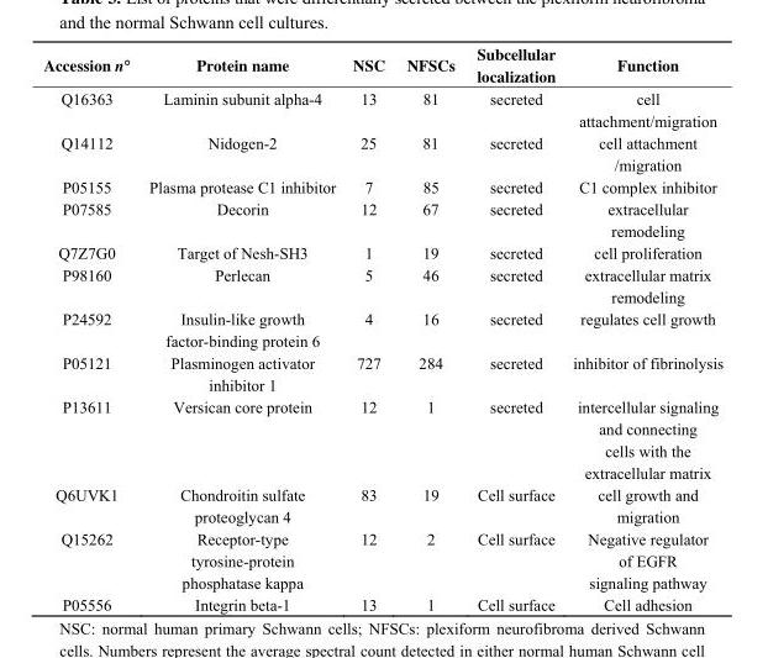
<table><thead><tr><td>Accession n°</td><td>Protein name</td><td>NSC</td><td>NFSCs</td><td>Subcellular localization</td><td>Function</td></tr></thead><tbody><tr><td>Q16363</td><td>Laminin subunit alpha-4</td><td>13</td><td>81</td><td>secreted</td><td>cell attachment/migration</td></tr><tr><td>Q14112</td><td>Nidogen-2</td><td>25</td><td>81</td><td>secreted</td><td>cell attachment /migration</td></tr><tr><td>P05155</td><td>Plasma protease C1 inhibitor</td><td>7</td><td>85</td><td>secreted</td><td>C1 complex inhibitor</td></tr><tr><td>P07585</td><td>Decorin</td><td>12</td><td>67</td><td>secreted</td><td>extracellular remodeling</td></tr><tr><td>Q7Z7G0</td><td>Target of Nesh-SH3</td><td>1</td><td>19</td><td>secreted</td><td>cell proliferation</td></tr><tr><td>P98160</td><td>Perlecan</td><td>5</td><td>46</td><td>secreted</td><td>extracellular matrix remodeling</td></tr><tr><td>P24592</td><td>Insulin-like growth factor-binding protein 6</td><td>4</td><td>16</td><td>secreted</td><td>regulates cell growth</td></tr><tr><td>P05121</td><td>Plasminogen activator inhibitor 1</td><td>727</td><td>284</td><td>secreted</td><td>inhibitor of fibrinolysis</td></tr><tr><td>P13611</td><td>Versican core protein</td><td>12</td><td>1</td><td>secreted</td><td>intercellular signaling and connecting cells with the extracellular matrix</td></tr><tr><td>Q6UVK1</td><td>Chondroitin sulfate proteoglycan 4</td><td>83</td><td>19</td><td>Cell surface</td><td>cell growth and migration</td></tr><tr><td>Q15262</td><td>Receptor-type tyrosine-protein phosphatase kappa</td><td>12</td><td>2</td><td>Cell surface</td><td>Negative regulator of EGFR signaling pathway</td></tr><tr><td>P05556</td><td>Integrin beta-1</td><td>13</td><td>1</td><td>Cell surface</td><td>Cell adhesion</td></tr></tbody></table>